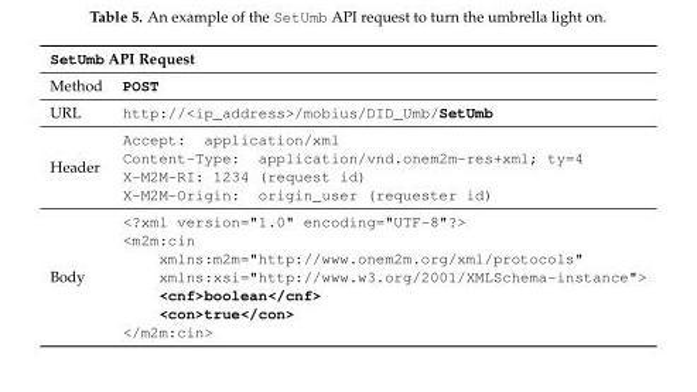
<table><thead><tr><td colspan="2">SetUmb API Request</td></tr><tr><td>Method</td><td>POST</td></tr></thead><tbody><tr><td>URL</td><td>http://&lt;ip_address&gt;/mobius/DID_Umb/SetUmb</td></tr><tr><td rowspan="4">Header</td><td>Accept: application/xml</td></tr><tr><td>Content-Type: application/vnd.onem2m-res+xml; ty=4</td></tr><tr><td>X-M2M-RI: 1234 (request id)</td></tr><tr><td>X-M2M-Origin: origin_user (requester id)</td></tr><tr><td rowspan="7">Body</td><td>&lt;?xml version=&quot;1.0&quot; encoding=&quot;UTF-8&quot;?&gt;</td></tr><tr><td>&lt;m2m:cin</td></tr><tr><td>xmlns:m2m=&quot;http://www.onem2m.org/xml/protocols&quot;</td></tr><tr><td>xmlns:xsi=&quot;http://www.w3.org/2001/XMLSchema-instance&quot;&gt;</td></tr><tr><td>&lt;cnf&gt;boolean&lt;/cnf&gt;</td></tr><tr><td>&lt;con&gt;true&lt;/con&gt;</td></tr><tr><td>&lt;/m2m:cin&gt;</td></tr></tbody></table>